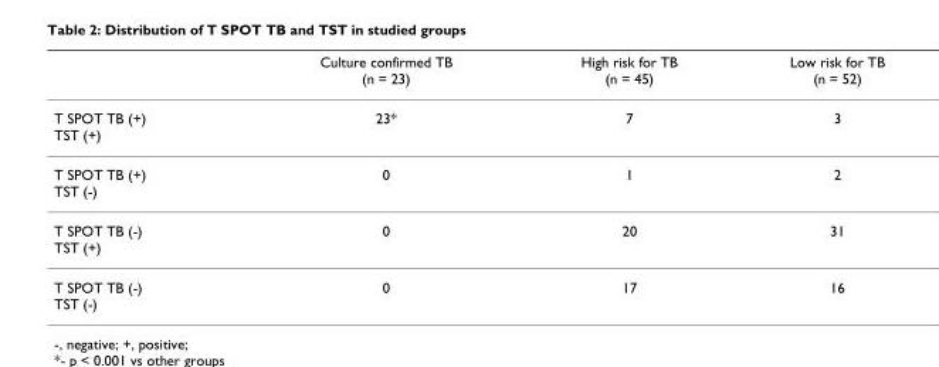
<table><thead><tr><td></td><td>Culture confirmed TB (n = 23)</td><td>High risk for TB (n = 45)</td><td>Low risk for TB (n = 52)</td></tr></thead><tbody><tr><td>T SPOT TB (+) TST (+)</td><td>23*</td><td>7</td><td>3</td></tr><tr><td>T SPOT TB (+) TST (-)</td><td>0</td><td>1</td><td>2</td></tr><tr><td>T SPOT TB (-) TST (+)</td><td>0</td><td>20</td><td>31</td></tr><tr><td>T SPOT TB (-) TST (-)</td><td>0</td><td>17</td><td>16</td></tr></tbody></table>